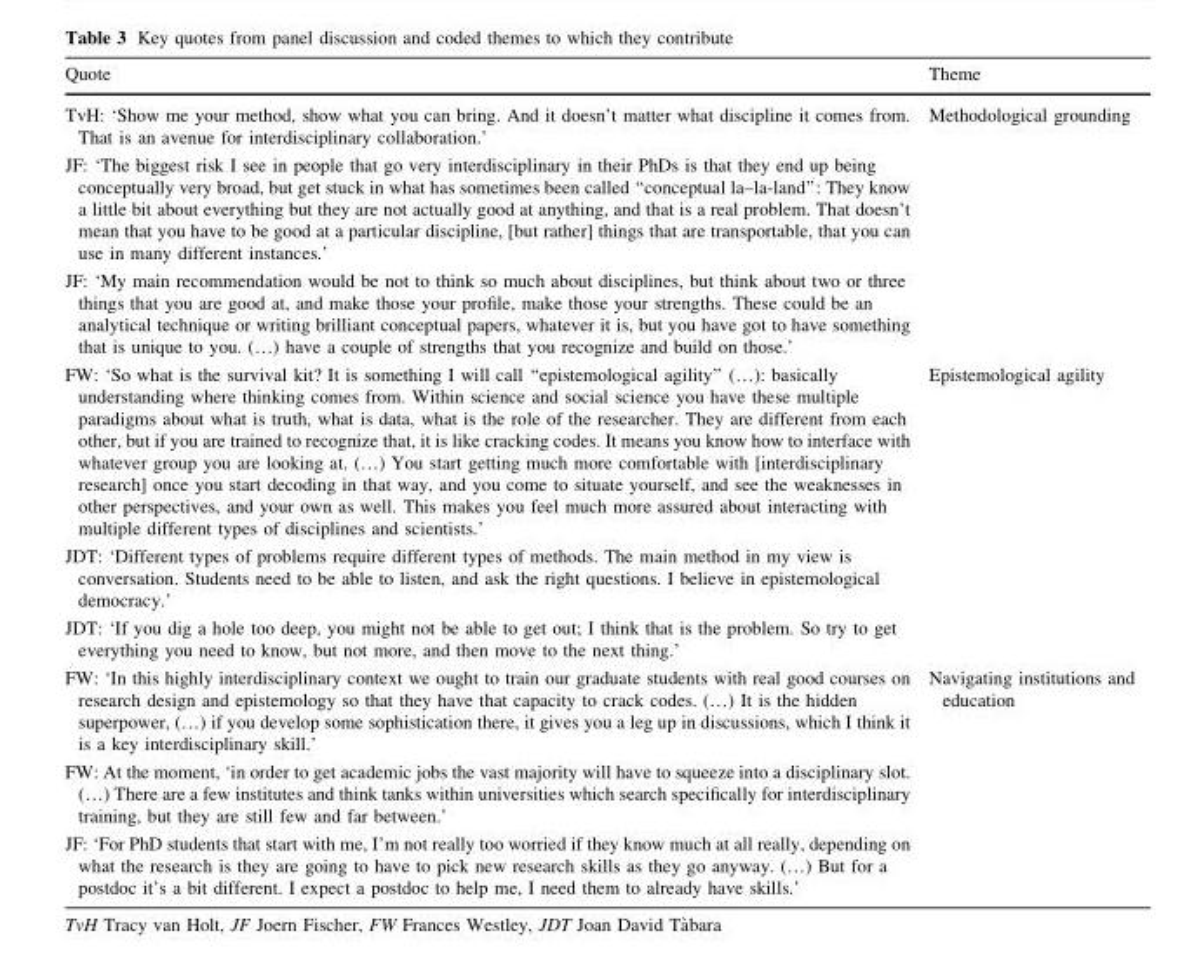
<table><thead><tr><td>Quote</td><td>Theme</td></tr></thead><tbody><tr><td>TvH: ‘Show me your method, show what you can bring. And it doesn’t matter what discipline it comes from. That is an avenue for interdisciplinary collaboration.’ JF: ‘The biggest risk I see in people that go very interdisciplinary in their PhDs is that they end up being conceptually very broad, but get stuck in what has sometimes been called ‘‘conceptual la–la-land’’: They know a little bit about everything but they are not actually good at anything, and that is a real problem. That doesn’t mean that you have to be good at a particular discipline, [but rather] things that are transportable, that you can use in many different instances.’ JF: ‘My main recommendation would be not to think so much about disciplines, but think about two or three things that you are good at, and make those your profile, make those your strengths. These could be an analytical technique or writing brilliant conceptual papers, whatever it is, but you have got to have something that is unique to you. (…) have a couple of strengths that you recognize and build on those.’</td><td>Methodological grounding</td></tr><tr><td>FW: ‘So what is the survival kit? It is something I will call ‘‘epistemological agility’’ (…): basically understanding where thinking comes from. Within science and social science you have these multiple paradigms about what is truth, what is data, what is the role of the researcher. They are different from each other, but if you are trained to recognize that, it is like cracking codes. It means you know how to interface with whatever group you are looking at. (…) You start getting much more comfortable with [interdisciplinary research] once you start decoding in that way, and you come to situate yourself, and see the weaknesses in other perspectives, and your own as well. This makes you feel much more assured about interacting with multiple different types of disciplines and scientists.’ JDT: ‘Different types of problems require different types of methods. The main method in my view is conversation. Students need to be able to listen, and ask the right questions. I believe in epistemological democracy.’ JDT: ‘If you dig a hole too deep, you might not be able to get out; I think that is the problem. So try to get everything you need to know, but not more, and then move to the next thing.’</td><td>Epistemological agility</td></tr><tr><td>FW: ‘In this highly interdisciplinary context we ought to train our graduate students with real good courses on research design and epistemology so that they have that capacity to crack codes. (…) It is the hidden superpower, (…) if you develop some sophistication there, it gives you a leg up in discussions, which I think it is a key interdisciplinary skill.’ FW: At the moment, ‘in order to get academic jobs the vast majority will have to squeeze into a disciplinary slot. (…) There are a few institutes and think tanks within universities which search specifically for interdisciplinary training, but they are still few and far between.’ JF: ‘For PhD students that start with me, I’m not really too worried if they know much at all really, depending on what the research is they are going to have to pick new research skills as they go anyway. (…) But for a postdoc it’s a bit different. I expect a postdoc to help me, I need them to already have skills.’</td><td>Navigating institutions and education</td></tr></tbody></table>